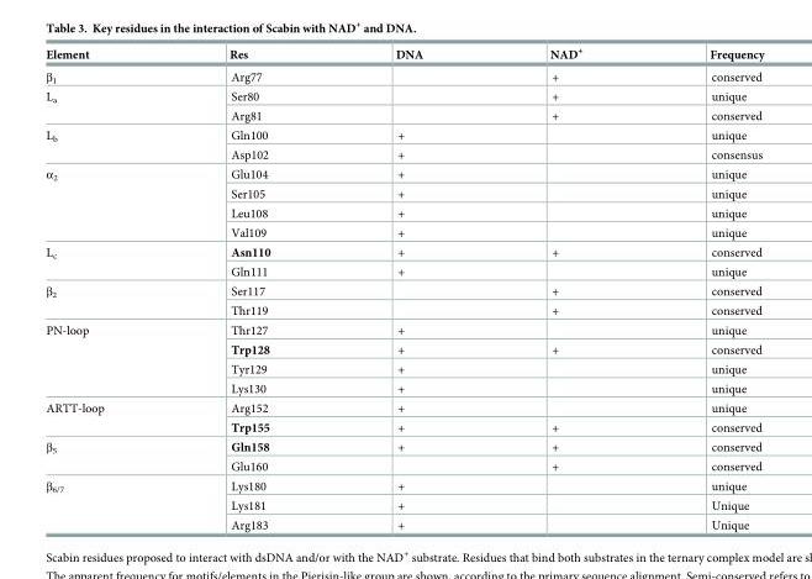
<table><thead><tr><td>Element</td><td>Res</td><td>DNA</td><td>NAD<sup>+</sup></td><td>Frequency</td></tr></thead><tbody><tr><td>β<sub>1</sub></td><td>Arg77</td><td></td><td>+</td><td>conserved</td></tr><tr><td rowspan="2">L<sub>a</sub></td><td>Ser80</td><td></td><td>+</td><td>unique</td></tr><tr><td>Arg81</td><td></td><td>+</td><td>conserved</td></tr><tr><td rowspan="2">L<sub>b</sub></td><td>Gln100</td><td>+</td><td></td><td>unique</td></tr><tr><td>Asp102</td><td>+</td><td></td><td>consensus</td></tr><tr><td rowspan="4">α<sub>2</sub></td><td>Glu104</td><td>+</td><td></td><td>unique</td></tr><tr><td>Ser105</td><td>+</td><td></td><td>unique</td></tr><tr><td>Leu108</td><td>+</td><td></td><td>unique</td></tr><tr><td>Val109</td><td>+</td><td></td><td>unique</td></tr><tr><td rowspan="2">L<sub>c</sub></td><td>Asn110</td><td>+</td><td>+</td><td>conserved</td></tr><tr><td>Gln111</td><td>+</td><td></td><td>unique</td></tr><tr><td rowspan="2">β<sub>2</sub></td><td>Ser117</td><td></td><td>+</td><td>conserved</td></tr><tr><td>Thr119</td><td></td><td>+</td><td>conserved</td></tr><tr><td rowspan="4">PN-loop</td><td>Thr127</td><td>+</td><td></td><td>unique</td></tr><tr><td>Trp128</td><td>+</td><td>+</td><td>conserved</td></tr><tr><td>Tyr129</td><td>+</td><td></td><td>unique</td></tr><tr><td>Lys130</td><td>+</td><td></td><td>unique</td></tr><tr><td rowspan="2">ARTT-loop</td><td>Arg152</td><td>+</td><td></td><td>unique</td></tr><tr><td>Trp155</td><td>+</td><td>+</td><td>conserved</td></tr><tr><td rowspan="2">β<sub>5</sub></td><td>Gln158</td><td>+</td><td>+</td><td>conserved</td></tr><tr><td>Glu160</td><td></td><td>+</td><td>conserved</td></tr><tr><td rowspan="3">β<sub>6/7</sub></td><td>Lys180</td><td>+</td><td></td><td>unique</td></tr><tr><td>Lys181</td><td>+</td><td></td><td>Unique</td></tr><tr><td>Arg183</td><td>+</td><td></td><td>Unique</td></tr></tbody></table>